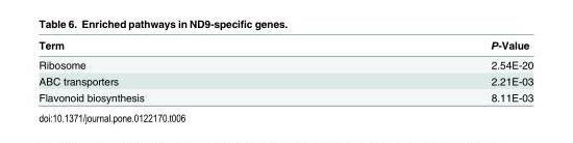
<table><thead><tr><td>Term</td><td>P-Value</td></tr></thead><tbody><tr><td>Ribosome</td><td>2.54E-20</td></tr><tr><td>ABC transporters</td><td>2.21E-03</td></tr><tr><td>Flavonoid biosynthesis</td><td>8.11E-03</td></tr></tbody></table>